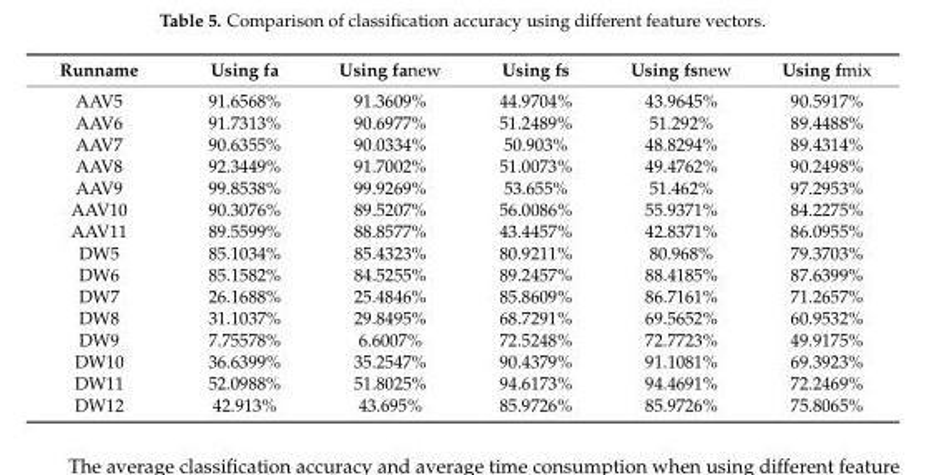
<table><tbody><tr><td>Runname</td><td>Using fa</td><td>Using fanew</td><td>Using fs</td><td>Using fsnew</td><td>Using fmix</td></tr><tr><td>AAV5</td><td>91.6568%</td><td>91.3609%</td><td>44.9704%</td><td>43.9645%</td><td>90.5917%</td></tr><tr><td>AAV6</td><td>91.7313%</td><td>90.6977%</td><td>51.2489%</td><td>51.292%</td><td>89.4488%</td></tr><tr><td>AAV7</td><td>90.6355%</td><td>90.0334%</td><td>50.903%</td><td>48.8294%</td><td>89.4314%</td></tr><tr><td>AAV8</td><td>92.3449%</td><td>91.7002%</td><td>51.0073%</td><td>49.4762%</td><td>90.2498%</td></tr><tr><td>AAV9</td><td>99.8538%</td><td>99.9269%</td><td>53.655%</td><td>51.462%</td><td>97.2953%</td></tr><tr><td>AAV10</td><td>90.3076%</td><td>89.5207%</td><td>56.0086%</td><td>55.9371%</td><td>84.2275%</td></tr><tr><td>AAV11</td><td>89.5599%</td><td>88.8577%</td><td>43.4457%</td><td>42.8371%</td><td>86.0955%</td></tr><tr><td>DW5</td><td>85.1034%</td><td>85.4323%</td><td>80.9211%</td><td>80.968%</td><td>79.3703%</td></tr><tr><td>DW6</td><td>85.1582%</td><td>84.5255%</td><td>89.2457%</td><td>88.4185%</td><td>87.6399%</td></tr><tr><td>DW7</td><td>26.1688%</td><td>25.4846%</td><td>85.8609%</td><td>86.7161%</td><td>71.2657%</td></tr><tr><td>DW8</td><td>31.1037%</td><td>29.8495%</td><td>68.7291%</td><td>69.5652%</td><td>60.9532%</td></tr><tr><td>DW9</td><td>7.75578%</td><td>6.6007%</td><td>72.5248%</td><td>72.7723%</td><td>49.9175%</td></tr><tr><td>DW10</td><td>36.6399%</td><td>35.2547%</td><td>90.4379%</td><td>91.1081%</td><td>69.3923%</td></tr><tr><td>DW11</td><td>52.0988%</td><td>51.8025%</td><td>94.6173%</td><td>94.4691%</td><td>72.2469%</td></tr><tr><td>DW12</td><td>42.913%</td><td>43.695%</td><td>85.9726%</td><td>85.9726%</td><td>75.8065%</td></tr></tbody></table>